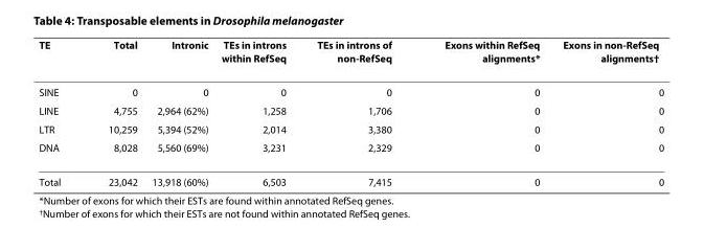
<table><thead><tr><td>TE</td><td>Total</td><td>Intronic</td><td>TEs in introns within RefSeq</td><td>TEs in introns of non-RefSeq</td><td>Exons within RefSeq alignments*</td><td>Exons in non-RefSeq alignments<sup>†</sup></td></tr></thead><tbody><tr><td>SINE</td><td>0</td><td>0</td><td>0</td><td>0</td><td>0</td><td>0</td></tr><tr><td>LINE</td><td>4,755</td><td>2,964 (62%)</td><td>1,258</td><td>1,706</td><td>0</td><td>0</td></tr><tr><td>LTR</td><td>10,259</td><td>5,394 (52%)</td><td>2,014</td><td>3,380</td><td>0</td><td>0</td></tr><tr><td>DNA</td><td>8,028</td><td>5,560 (69%)</td><td>3,231</td><td>2,329</td><td>0</td><td>0</td></tr><tr><td>Total</td><td>23,042</td><td>13,918 (60%)</td><td>6,503</td><td>7,415</td><td>0</td><td>0</td></tr></tbody></table>